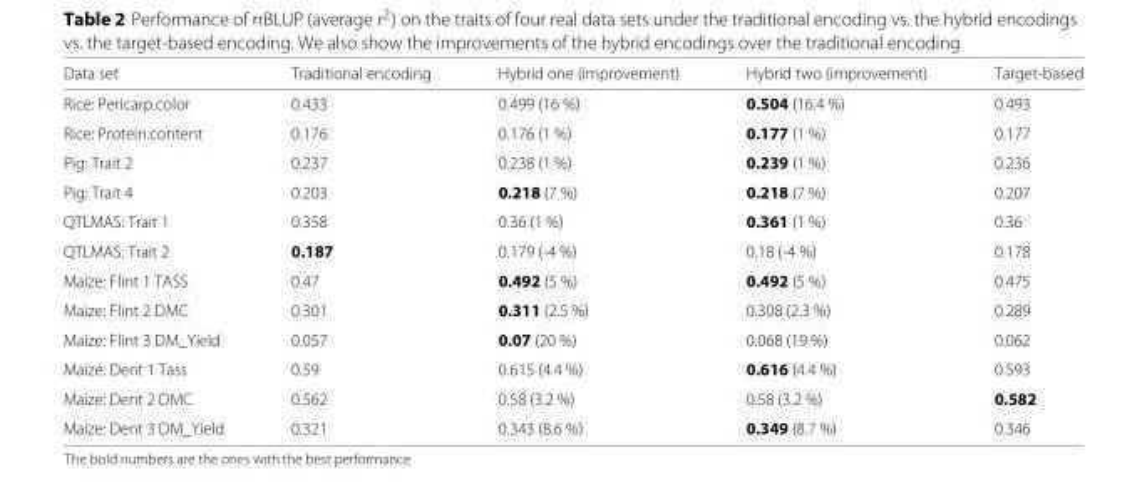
<table><thead><tr><td>Data set</td><td>Traditional encoding</td><td>Hybrid one (improvement)</td><td>Hybrid two (improvement)</td><td>Target-based</td></tr></thead><tbody><tr><td>Rice: Pericarp.color</td><td>0.433</td><td>0.499 (16 %)</td><td>0.504 (16.4 %)</td><td>0.493</td></tr><tr><td>Rice: Protein.content</td><td>0.176</td><td>0.176 (1 %)</td><td>0.177 (1 %)</td><td>0.177</td></tr><tr><td>Pig: Trait 2</td><td>0.237</td><td>0.238 (1 %)</td><td>0.239 (1 %)</td><td>0.236</td></tr><tr><td>Pig: Trait 4</td><td>0.203</td><td>0.218 (7 %)</td><td>0.218 (7 %)</td><td>0.207</td></tr><tr><td>QTLMAS: Trait 1</td><td>0.358</td><td>0.36 (1 %)</td><td>0.361 (1 %)</td><td>0.36</td></tr><tr><td>QTLMAS: Trait 2</td><td>0.187</td><td>0.179 (-4 %)</td><td>0.18 (-4 %)</td><td>0.178</td></tr><tr><td>Maize: Flint 1 TASS</td><td>0.47</td><td>0.492 (5 %)</td><td>0.492 (5 %)</td><td>0.475</td></tr><tr><td>Maize: Flint 2 DMC</td><td>0.301</td><td>0.311 (2.5 %)</td><td>0.308 (2.3 %)</td><td>0.289</td></tr><tr><td>Maize: Flint 3 DM_Yield</td><td>0.057</td><td>0.07 (20 %)</td><td>0.068 (19 %)</td><td>0.062</td></tr><tr><td>Maize: Dent 1 Tass</td><td>0.59</td><td>0.615 (4.4 %)</td><td>0.616 (4.4 %)</td><td>0.593</td></tr><tr><td>Maize: Dent 2 DMC</td><td>0.562</td><td>0.58 (3.2 %)</td><td>0.58 (3.2 %)</td><td>0.582</td></tr><tr><td>Maize: Dent 3 DM_Yield</td><td>0.321</td><td>0.343 (8.6 %)</td><td>0.349 (8.7 %)</td><td>0.346</td></tr></tbody></table>